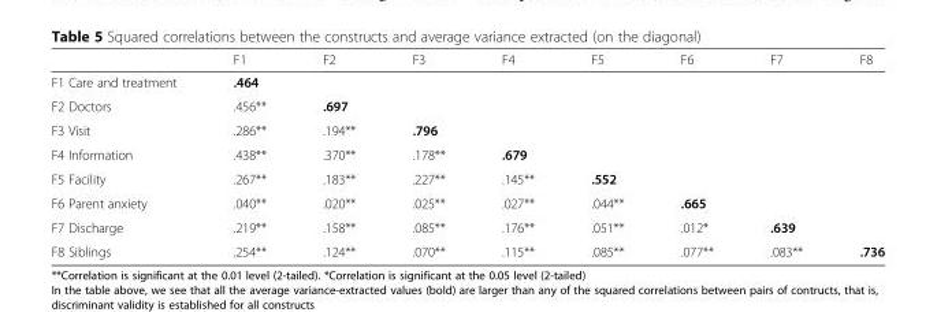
<table><thead><tr><td></td><td>F1</td><td>F2</td><td>F3</td><td>F4</td><td>F5</td><td>F6</td><td>F7</td><td>F8</td></tr></thead><tbody><tr><td>F1 Care and treatment</td><td>.464</td><td></td><td></td><td></td><td></td><td></td><td></td><td></td></tr><tr><td>F2 Doctors</td><td>.456**</td><td>.697</td><td></td><td></td><td></td><td></td><td></td><td></td></tr><tr><td>F3 Visit</td><td>.286**</td><td>.194**</td><td>.796</td><td></td><td></td><td></td><td></td><td></td></tr><tr><td>F4 Information</td><td>.438**</td><td>.370**</td><td>.178**</td><td>.679</td><td></td><td></td><td></td><td></td></tr><tr><td>F5 Facility</td><td>.267**</td><td>.183**</td><td>.227**</td><td>.145**</td><td>.552</td><td></td><td></td><td></td></tr><tr><td>F6 Parent anxiety</td><td>.040**</td><td>.020**</td><td>.025**</td><td>.027**</td><td>.044**</td><td>.665</td><td></td><td></td></tr><tr><td>F7 Discharge</td><td>.219**</td><td>.158**</td><td>.085**</td><td>.176**</td><td>.051**</td><td>.012*</td><td>.639</td><td></td></tr><tr><td>F8 Siblings</td><td>.254**</td><td>.124**</td><td>.070**</td><td>.115**</td><td>.085**</td><td>.077**</td><td>.083**</td><td>.736</td></tr></tbody></table>